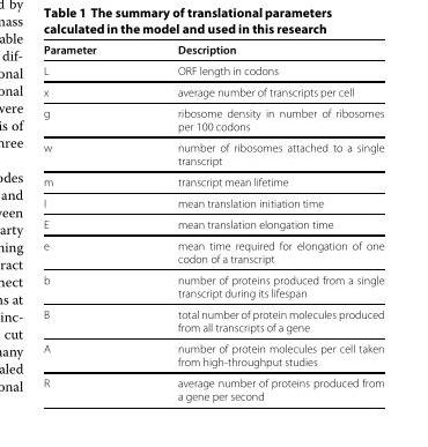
<table><thead><tr><td>Parameter</td><td>Description</td></tr></thead><tbody><tr><td>L</td><td>ORF length in codons</td></tr><tr><td>x</td><td>average number of transcripts per cell</td></tr><tr><td>g</td><td>ribosome density in number of ribosomes per 100 codons</td></tr><tr><td>w</td><td>number of ribosomes attached to a single transcript</td></tr><tr><td>m</td><td>transcript mean lifetime</td></tr><tr><td>I</td><td>mean translation initiation time</td></tr><tr><td>E</td><td>mean translation elongation time</td></tr><tr><td>e</td><td>mean time required for elongation of one codon of a transcript</td></tr><tr><td>b</td><td>number of proteins produced from a single transcript during its lifespan</td></tr><tr><td>B</td><td>total number of protein molecules produced from all transcripts of a gene</td></tr><tr><td>A</td><td>number of protein molecules per cell taken from high-throughput studies</td></tr><tr><td>R</td><td>average number of proteins produced from a gene per second</td></tr></tbody></table>